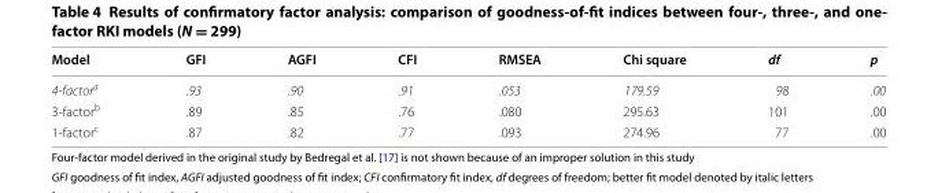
<table><thead><tr><td>Model</td><td>GFI</td><td>AGFI</td><td>CFI</td><td>RMSEA</td><td>Chi square</td><td>df</td><td>p</td></tr></thead><tbody><tr><td>4-factor<sup>a</sup></td><td>.93</td><td>.90</td><td>.91</td><td>.053</td><td>179.59</td><td>98</td><td>.00</td></tr><tr><td>3-factor<sup>b</sup></td><td>.89</td><td>.85</td><td>.76</td><td>.080</td><td>295.63</td><td>101</td><td>.00</td></tr><tr><td>1-factor<sup>c</sup></td><td>.87</td><td>.82</td><td>.77</td><td>.093</td><td>274.96</td><td>77</td><td>.00</td></tr></tbody></table>